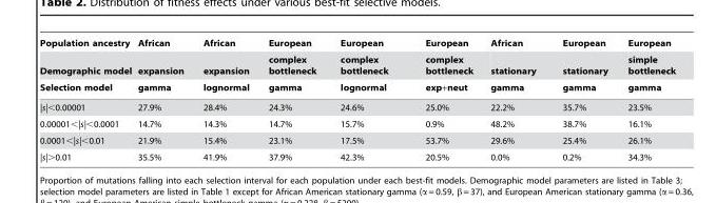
<table><thead><tr><td rowspan="3">Population ancestry Demographic model Selection model</td><td rowspan="3">African expansion gamma</td><td rowspan="3">African expansion lognormal</td><td rowspan="3">European complex bottleneck gamma</td><td rowspan="3">European complex bottleneck lognormal</td><td rowspan="3">European complex bottleneck exp+neut</td><td rowspan="3">African stationary gamma</td><td rowspan="3">European stationary gamma</td><td rowspan="3">European simple bottleneck gamma</td></tr><tr></tr><tr></tr></thead><tbody><tr><td>|s|&lt;0.00001</td><td>27.9%</td><td>28.4%</td><td>24.3%</td><td>24.6%</td><td>25.0%</td><td>22.2%</td><td>35.7%</td><td>23.5%</td></tr><tr><td>0.00001&lt;|s|&lt;0.0001</td><td>14.7%</td><td>14.3%</td><td>14.7%</td><td>15.7%</td><td>0.9%</td><td>48.2%</td><td>38.7%</td><td>16.1%</td></tr><tr><td>0.0001&lt;|s|&lt;0.01</td><td>21.9%</td><td>15.4%</td><td>23.1%</td><td>17.5%</td><td>53.7%</td><td>29.6%</td><td>25.4%</td><td>26.1%</td></tr><tr><td>|s|&gt;0.01</td><td>35.5%</td><td>41.9%</td><td>37.9%</td><td>42.3%</td><td>20.5%</td><td>0.0%</td><td>0.2%</td><td>34.3%</td></tr></tbody></table>